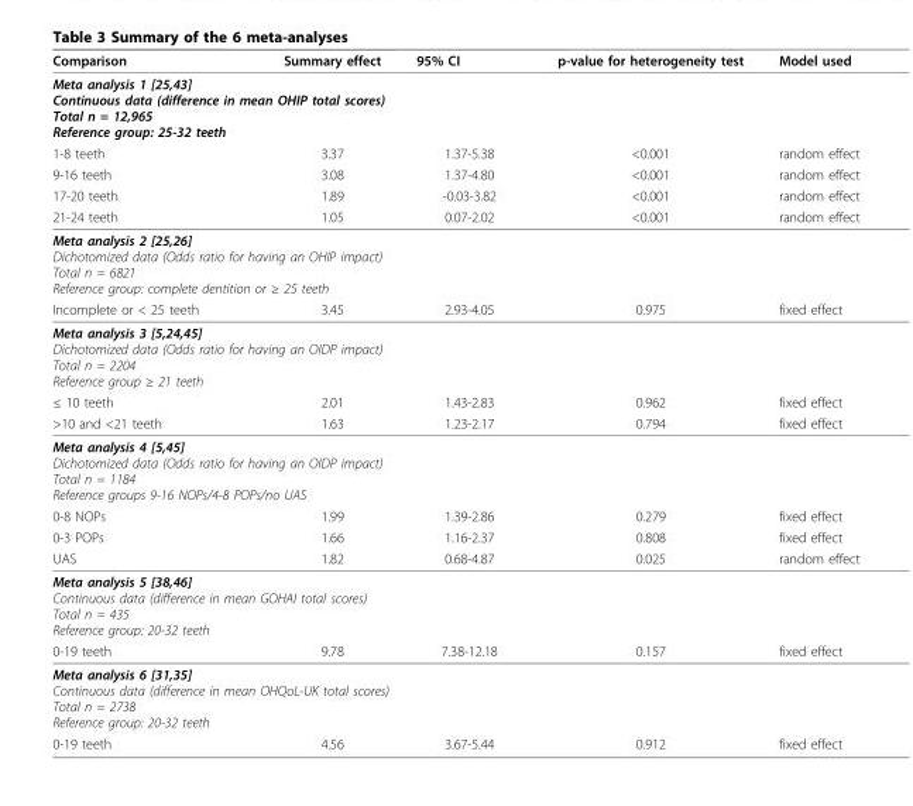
<table><thead><tr><td>Comparison</td><td>Summary effect</td><td>95% CI</td><td>p-value for heterogeneity test</td><td>Model used</td></tr></thead><tbody><tr><td colspan="5">Meta analysis 1 [25,43] Continuous data (difference in mean OHIP total scores) Total n = 12,965 Reference group: 25-32 teeth</td></tr><tr><td>1-8 teeth</td><td>3.37</td><td>1.37-5.38</td><td>&lt;0.001</td><td>random effect</td></tr><tr><td>9-16 teeth</td><td>3.08</td><td>1.37-4.80</td><td>&lt;0.001</td><td>random effect</td></tr><tr><td>17-20 teeth</td><td>1.89</td><td>-0.03-3.82</td><td>&lt;0.001</td><td>random effect</td></tr><tr><td>21-24 teeth</td><td>1.05</td><td>0.07-2.02</td><td>&lt;0.001</td><td>random effect</td></tr><tr><td colspan="5">Meta analysis 2 [25,26] Dichotomized data (Odds ratio for having an OHIP impact) Total n = 6821 Reference group: complete dentition or ≥ 25 teeth</td></tr><tr><td>Incomplete or &lt; 25 teeth</td><td>3.45</td><td>2.93-4.05</td><td>0.975</td><td>fixed effect</td></tr><tr><td colspan="5">Meta analysis 3 [5,24,45] Dichotomized data (Odds ratio for having an OIDP impact) Total n = 2204 Reference group ≥ 21 teeth</td></tr><tr><td>≤ 10 teeth</td><td>2.01</td><td>1.43-2.83</td><td>0.962</td><td>fixed effect</td></tr><tr><td>&gt;10 and &lt;21 teeth</td><td>1.63</td><td>1.23-2.17</td><td>0.794</td><td>fixed effect</td></tr><tr><td colspan="5">Meta analysis 4 [5,45] Dichotomized data (Odds ratio for having an OIDP impact) Total n = 1184 Reference groups 9-16 NOPs/4-8 POPs/no UAS</td></tr><tr><td>0-8 NOPs</td><td>1.99</td><td>1.39-2.86</td><td>0.279</td><td>fixed effect</td></tr><tr><td>0-3 POPs</td><td>1.66</td><td>1.16-2.37</td><td>0.808</td><td>fixed effect</td></tr><tr><td>UAS</td><td>1.82</td><td>0.68-4.87</td><td>0.025</td><td>random effect</td></tr><tr><td colspan="5">Meta analysis 5 [38,46] Continuous data (difference in mean GOHAI total scores) Total n = 435 Reference group: 20-32 teeth</td></tr><tr><td>0-19 teeth</td><td>9.78</td><td>7.38-12.18</td><td>0.157</td><td>fixed effect</td></tr><tr><td colspan="5">Meta analysis 6 [31,35] Continuous data (difference in mean OHQoL-UK total scores) Total n = 2738 Reference group: 20-32 teeth</td></tr><tr><td>0-19 teeth</td><td>4.56</td><td>3.67-5.44</td><td>0.912</td><td>fixed effect</td></tr></tbody></table>